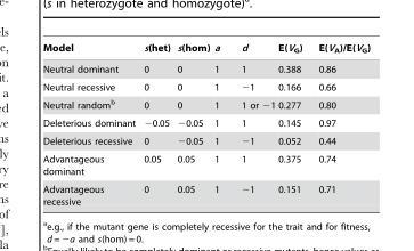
<table><thead><tr><td>Model</td><td>s(het)</td><td>s(hom)</td><td>a</td><td>d</td><td>E(V<sub>G</sub>)</td><td>E(V<sub>A</sub>)/E(V<sub>G</sub>)</td></tr></thead><tbody><tr><td>Neutral dominant</td><td>0</td><td>0</td><td>1</td><td>1</td><td>0.388</td><td>0.86</td></tr><tr><td>Neutral recessive</td><td>0</td><td>0</td><td>1</td><td>−1</td><td>0.166</td><td>0.66</td></tr><tr><td>Neutral random<sup>b</sup></td><td>0</td><td>0</td><td>1</td><td>1 or −1</td><td>0.277</td><td>0.80</td></tr><tr><td>Deleterious dominant</td><td>−0.05</td><td>−0.05</td><td>1</td><td>1</td><td>0.145</td><td>0.97</td></tr><tr><td>Deleterious recessive</td><td>0</td><td>−0.05</td><td>1</td><td>−1</td><td>0.052</td><td>0.44</td></tr><tr><td>Advantageous dominant</td><td>0.05</td><td>0.05</td><td>1</td><td>1</td><td>0.375</td><td>0.74</td></tr><tr><td>Advantageous recessive</td><td>0</td><td>0.05</td><td>1</td><td>−1</td><td>0.151</td><td>0.71</td></tr></tbody></table>